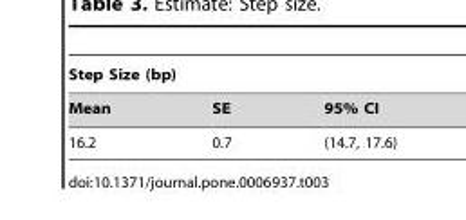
<table><thead><tr><td colspan="3">Step Size (bp)</td></tr><tr><td>Mean</td><td>SE</td><td>95% CI</td></tr></thead><tbody><tr><td>16.2</td><td>0.7</td><td>(14.7, 17.6)</td></tr></tbody></table>